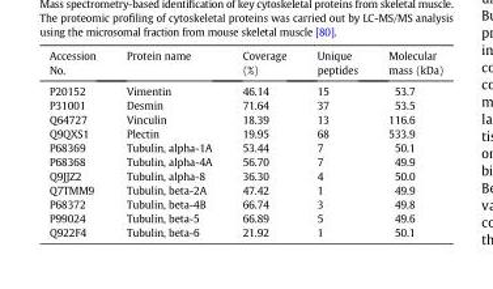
<table><thead><tr><td>Accession No.</td><td>Protein name</td><td>Coverage (%)</td><td>Unique peptides</td><td>Molecular mass (kDa)</td></tr></thead><tbody><tr><td>P20152</td><td>Vimentin</td><td>46.14</td><td>15</td><td>53.7</td></tr><tr><td>P31001</td><td>Desmin</td><td>71.64</td><td>37</td><td>53.5</td></tr><tr><td>Q64727</td><td>Vinculin</td><td>18.39</td><td>13</td><td>116.6</td></tr><tr><td>Q9QXS1</td><td>Plectin</td><td>19.95</td><td>68</td><td>533.9</td></tr><tr><td>P68369</td><td>Tubulin, alpha-1A</td><td>53.44</td><td>7</td><td>50.1</td></tr><tr><td>P68368</td><td>Tubulin, alpha-4A</td><td>56.70</td><td>7</td><td>49.9</td></tr><tr><td>Q9JJZ2</td><td>Tubulin, alpha-8</td><td>36.30</td><td>4</td><td>50.0</td></tr><tr><td>Q7TMM9</td><td>Tubulin, beta-2A</td><td>47.42</td><td>1</td><td>49.9</td></tr><tr><td>P68372</td><td>Tubulin, beta-4B</td><td>66.74</td><td>3</td><td>49.8</td></tr><tr><td>P99024</td><td>Tubulin, beta-5</td><td>66.89</td><td>5</td><td>49.6</td></tr><tr><td>Q922F4</td><td>Tubulin, beta-6</td><td>21.92</td><td>1</td><td>50.1</td></tr></tbody></table>